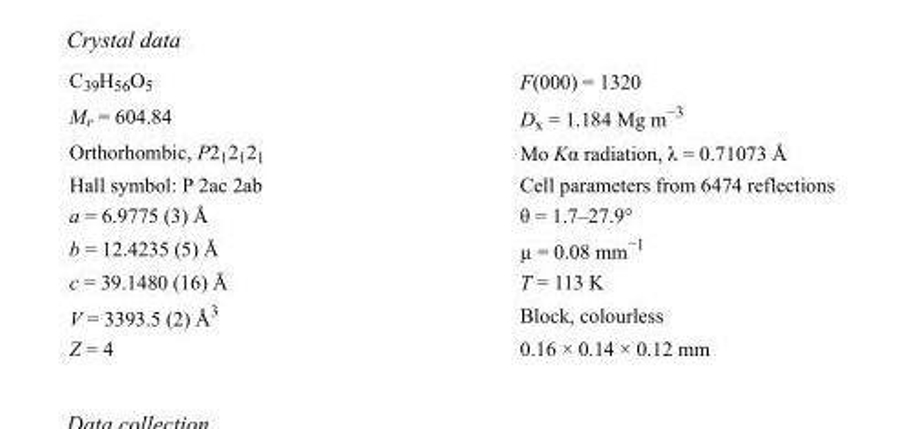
<table><tbody><tr><td>C<sub>39</sub>H<sub>56</sub>O<sub>5</sub></td><td>F(000) = 1320</td></tr><tr><td>M<sub>r</sub> = 604.84</td><td>D<sub>x</sub> = 1.184 Mg m<sup>−3</sup></td></tr><tr><td>Orthorhombic, P2<sub>1</sub>2<sub>1</sub>2<sub>1</sub></td><td>Mo Kα radiation, λ = 0.71073 Å</td></tr><tr><td>Hall symbol: P 2ac 2ab</td><td>Cell parameters from 6474 reflections</td></tr><tr><td>a = 6.9775 (3) Å</td><td>θ = 1.7–27.9°</td></tr><tr><td>b = 12.4235 (5) Å</td><td>µ = 0.08 mm<sup>−1</sup></td></tr><tr><td>c = 39.1480 (16) Å</td><td>T = 113 K</td></tr><tr><td>V = 3393.5 (2) Å<sup>3</sup></td><td>Block, colourless</td></tr><tr><td>Z = 4</td><td>0.16 × 0.14 × 0.12 mm</td></tr></tbody></table>